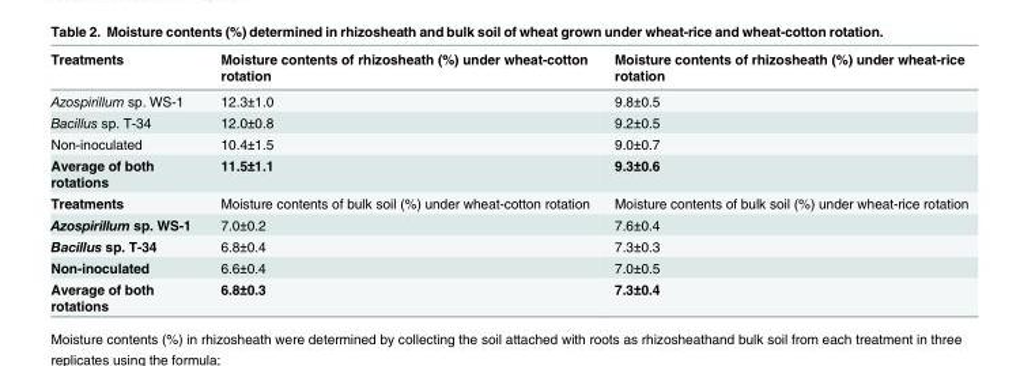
<table><thead><tr><td>Treatments</td><td>Moisture contents of rhizosheath (%) under wheat-cotton rotation</td><td>Moisture contents of rhizosheath (%) under wheat-rice rotation</td></tr></thead><tbody><tr><td>Azospirillum sp. WS-1</td><td>12.3±1.0</td><td>9.8±0.5</td></tr><tr><td>Bacillus sp. T-34</td><td>12.0±0.8</td><td>9.2±0.5</td></tr><tr><td>Non-inoculated</td><td>10.4±1.5</td><td>9.0±0.7</td></tr><tr><td>Average of both rotations</td><td>11.5±1.1</td><td>9.3±0.6</td></tr><tr><td>Treatments</td><td>Moisture contents of bulk soil (%) under wheat-cotton rotation</td><td>Moisture contents of bulk soil (%) under wheat-rice rotation</td></tr><tr><td>Azospirillum sp. WS-1</td><td>7.0±0.2</td><td>7.6±0.4</td></tr><tr><td>Bacillus sp. T-34</td><td>6.8±0.4</td><td>7.3±0.3</td></tr><tr><td>Non-inoculated</td><td>6.6±0.4</td><td>7.0±0.5</td></tr><tr><td>Average of both rotations</td><td>6.8±0.3</td><td>7.3±0.4</td></tr></tbody></table>